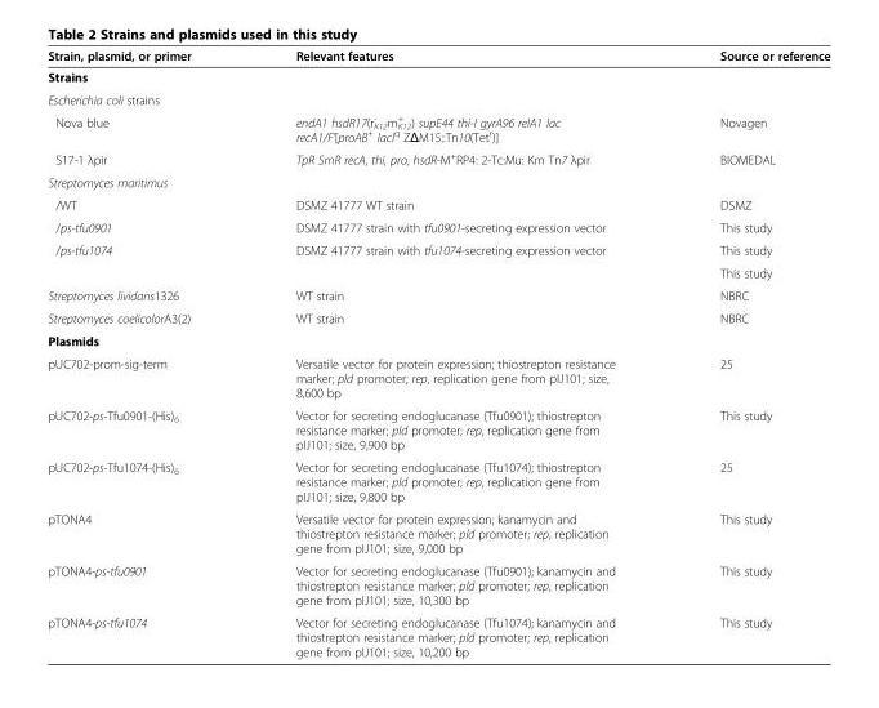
<table><thead><tr><td>Strain, plasmid, or primer</td><td>Relevant features</td><td>Source or reference</td></tr></thead><tbody><tr><td colspan="3">Strains</td></tr><tr><td colspan="3">Escherichia coli strains</td></tr><tr><td>Nova blue</td><td>endA1 hsdR17(r<sub>K12</sub> <sup>-</sup> m<sub>K12</sub> <sup>+</sup> ) supE44 thi-I gyrA96 relA1 lac recA1/F’[proAB<sup>+</sup> lacI<sup>q</sup> ZΔM15::Tn10(Tet<sup>r</sup>)]</td><td>Novagen</td></tr><tr><td>S17-1 λpir</td><td>TpR SmR recA, thi, pro, hsdR-M<sup>+</sup>RP4: 2-Tc:Mu: Km Tn7 λpir</td><td>BIOMEDAL</td></tr><tr><td colspan="3">Streptomyces maritimus</td></tr><tr><td>/WT</td><td>DSMZ 41777 WT strain</td><td>DSMZ</td></tr><tr><td>/ps-tfu0901</td><td>DSMZ 41777 strain with tfu0901-secreting expression vector</td><td>This study</td></tr><tr><td rowspan="2">/ps-tfu1074</td><td>DSMZ 41777 strain with tfu1074-secreting expression vector</td><td>This study</td></tr><tr><td></td><td>This study</td></tr><tr><td>Streptomyces lividans1326</td><td>WT strain</td><td>NBRC</td></tr><tr><td>Streptomyces coelicolorA3(2)</td><td>WT strain</td><td>NBRC</td></tr><tr><td colspan="3">Plasmids</td></tr><tr><td>pUC702-prom-sig-term</td><td>Versatile vector for protein expression; thiostrepton resistance marker; pld promoter; rep, replication gene from pIJ101; size, 8,600 bp</td><td>25</td></tr><tr><td>pUC702-ps-Tfu0901-(His)<sub>6</sub></td><td>Vector for secreting endoglucanase (Tfu0901); thiostrepton resistance marker; pld promoter; rep, replication gene from pIJ101; size, 9,900 bp</td><td>This study</td></tr><tr><td>pUC702-ps-Tfu1074-(His)<sub>6</sub></td><td>Vector for secreting endoglucanase (Tfu1074); thiostrepton resistance marker; pld promoter; rep, replication gene from pIJ101; size, 9,800 bp</td><td>25</td></tr><tr><td>pTONA4</td><td>Versatile vector for protein expression; kanamycin and thiostrepton resistance marker; pld promoter; rep, replication gene from pIJ101; size, 9,000 bp</td><td>This study</td></tr><tr><td>pTONA4-ps-tfu0901</td><td>Vector for secreting endoglucanase (Tfu0901); kanamycin and thiostrepton resistance marker; pld promoter; rep, replication gene from pIJ101; size, 10,300 bp</td><td>This study</td></tr><tr><td>pTONA4-ps-tfu1074</td><td>Vector for secreting endoglucanase (Tfu1074); kanamycin and thiostrepton resistance marker; pld promoter; rep, replication gene from pIJ101; size, 10,200 bp</td><td>This study</td></tr></tbody></table>